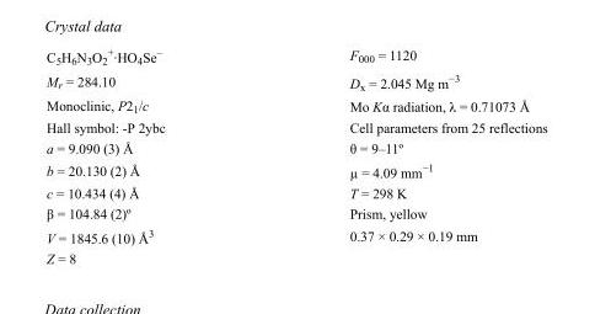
<table><tbody><tr><td>C<sub>5</sub>H<sub>6</sub>N<sub>3</sub>O<sub>2</sub> <sup>+</sup>·HO<sub>4</sub>Se<sup>–</sup></td><td>F000 = 1120</td></tr><tr><td>M<sub>r</sub> = 284.10</td><td>D<sub>x</sub> = 2.045 Mg m<sup>−3</sup></td></tr><tr><td>Monoclinic, P2<sub>1</sub>/c</td><td>Mo Kα radiation, λ = 0.71073 Å</td></tr><tr><td>Hall symbol: -P 2ybc</td><td>Cell parameters from 25 reflections</td></tr><tr><td>a = 9.090 (3) Å</td><td>θ = 9–11º</td></tr><tr><td>b = 20.130 (2) Å</td><td>µ = 4.09 mm<sup>−1</sup></td></tr><tr><td>c = 10.434 (4) Å</td><td>T = 298 K</td></tr><tr><td>β = 104.84 (2)º</td><td>Prism, yellow</td></tr><tr><td>V = 1845.6 (10) Å<sup>3</sup></td><td>0.37 × 0.29 × 0.19 mm</td></tr><tr><td>Z = 8</td><td></td></tr></tbody></table>